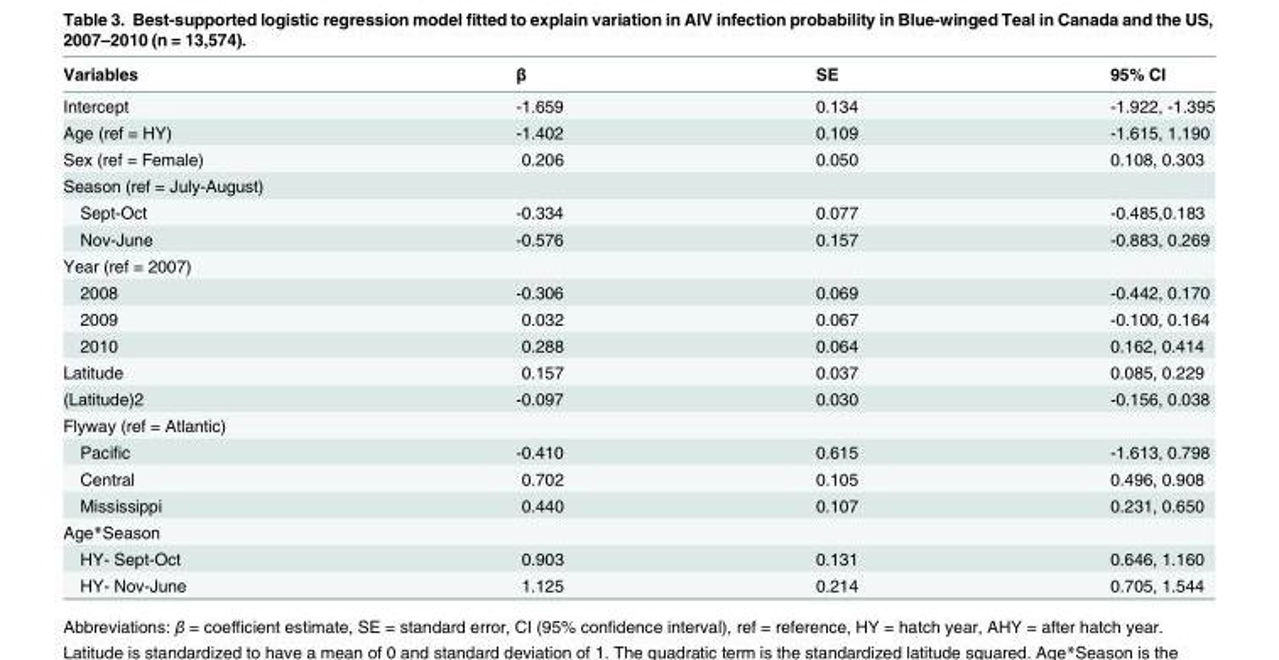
<table><thead><tr><td>Variables</td><td>β</td><td>SE</td><td>95% CI</td></tr></thead><tbody><tr><td>Intercept</td><td>-1.659</td><td>0.134</td><td>-1.922, -1.395</td></tr><tr><td>Age (ref = HY)</td><td>-1.402</td><td>0.109</td><td>-1.615, 1.190</td></tr><tr><td>Sex (ref = Female)</td><td>0.206</td><td>0.050</td><td>0.108, 0.303</td></tr><tr><td colspan="4">Season (ref = July-August)</td></tr><tr><td>Sept-Oct</td><td>-0.334</td><td>0.077</td><td>-0.485,0.183</td></tr><tr><td>Nov-June</td><td>-0.576</td><td>0.157</td><td>-0.883, 0.269</td></tr><tr><td colspan="4">Year (ref = 2007)</td></tr><tr><td>2008</td><td>-0.306</td><td>0.069</td><td>-0.442, 0.170</td></tr><tr><td>2009</td><td>0.032</td><td>0.067</td><td>-0.100, 0.164</td></tr><tr><td>2010</td><td>0.288</td><td>0.064</td><td>0.162, 0.414</td></tr><tr><td>Latitude</td><td>0.157</td><td>0.037</td><td>0.085, 0.229</td></tr><tr><td>(Latitude)2</td><td>-0.097</td><td>0.030</td><td>-0.156, 0.038</td></tr><tr><td colspan="4">Flyway (ref = Atlantic)</td></tr><tr><td>Pacific</td><td>-0.410</td><td>0.615</td><td>-1.613, 0.798</td></tr><tr><td>Central</td><td>0.702</td><td>0.105</td><td>0.496, 0.908</td></tr><tr><td>Mississippi</td><td>0.440</td><td>0.107</td><td>0.231, 0.650</td></tr><tr><td colspan="4">Age*Season</td></tr><tr><td>HY- Sept-Oct</td><td>0.903</td><td>0.131</td><td>0.646, 1.160</td></tr><tr><td>HY- Nov-June</td><td>1.125</td><td>0.214</td><td>0.705, 1.544</td></tr></tbody></table>